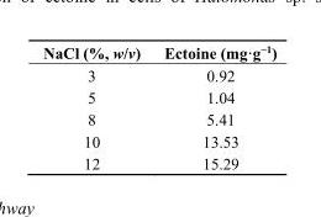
<table><thead><tr><td>NaCl (%, w/v)</td><td>Ectoine (mg·g<sup>−1</sup>)</td></tr></thead><tbody><tr><td>3</td><td>0.92</td></tr><tr><td>5</td><td>1.04</td></tr><tr><td>8</td><td>5.41</td></tr><tr><td>10</td><td>13.53</td></tr><tr><td>12</td><td>15.29</td></tr></tbody></table>